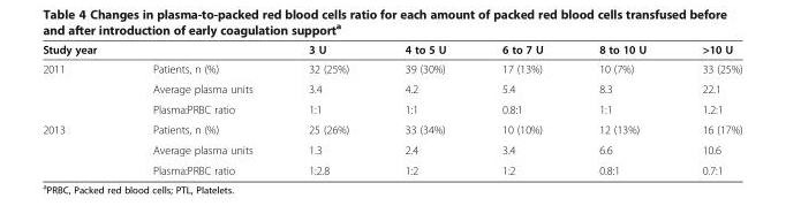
<table><thead><tr><td>Study year</td><td></td><td>3 U</td><td>4 to 5 U</td><td>6 to 7 U</td><td>8 to 10 U</td><td>&gt;10 U</td></tr></thead><tbody><tr><td rowspan="3">2011</td><td>Patients, n (%)</td><td>32 (25%)</td><td>39 (30%)</td><td>17 (13%)</td><td>10 (7%)</td><td>33 (25%)</td></tr><tr><td>Average plasma units</td><td>3.4</td><td>4.2</td><td>5.4</td><td>8.3</td><td>22.1</td></tr><tr><td>Plasma:PRBC ratio</td><td>1:1</td><td>1:1</td><td>0.8:1</td><td>1:1</td><td>1.2:1</td></tr><tr><td rowspan="3">2013</td><td>Patients, n (%)</td><td>25 (26%)</td><td>33 (34%)</td><td>10 (10%)</td><td>12 (13%)</td><td>16 (17%)</td></tr><tr><td>Average plasma units</td><td>1.3</td><td>2.4</td><td>3.4</td><td>6.6</td><td>10.6</td></tr><tr><td>Plasma:PRBC ratio</td><td>1:2.8</td><td>1:2</td><td>1:2</td><td>0.8:1</td><td>0.7:1</td></tr></tbody></table>